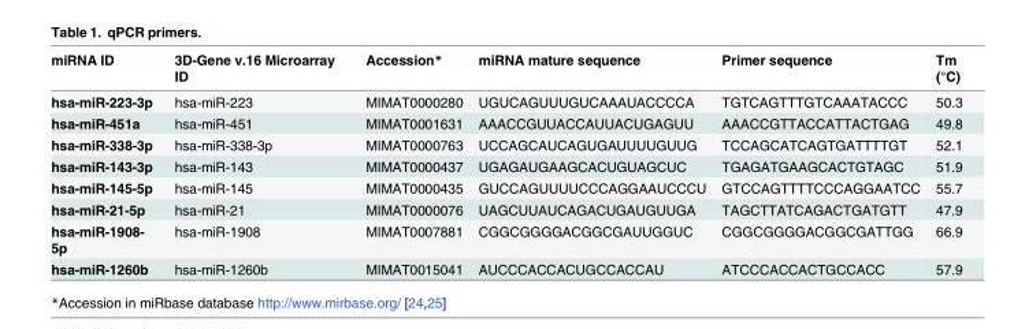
<table><thead><tr><td>miRNA ID</td><td>3D-Gene v.16 Microarray ID</td><td>Accession*</td><td>miRNA mature sequence</td><td>Primer sequence</td><td>Tm (°C)</td></tr></thead><tbody><tr><td>hsa-miR-223-3p</td><td>hsa-miR-223</td><td>MIMAT0000280</td><td>UGUCAGUUUGUCAAAUACCCCA</td><td>TGTCAGTTTGTCAAATACCC</td><td>50.3</td></tr><tr><td>hsa-miR-451a</td><td>hsa-miR-451</td><td>MIMAT0001631</td><td>AAACCGUUACCAUUACUGAGUU</td><td>AAACCGTTACCATTACTGAG</td><td>49.8</td></tr><tr><td>hsa-miR-338-3p</td><td>hsa-miR-338-3p</td><td>MIMAT0000763</td><td>UCCAGCAUCAGUGAUUUUGUUG</td><td>TCCAGCATCAGTGATTTTGT</td><td>52.1</td></tr><tr><td>hsa-miR-143-3p</td><td>hsa-miR-143</td><td>MIMAT0000437</td><td>UGAGAUGAAGCACUGUAGCUC</td><td>TGAGATGAAGCACTGTAGC</td><td>51.9</td></tr><tr><td>hsa-miR-145-5p</td><td>hsa-miR-145</td><td>MIMAT0000435</td><td>GUCCAGUUUUCCCAGGAAUCCCU</td><td>GTCCAGTTTTCCCAGGAATCC</td><td>55.7</td></tr><tr><td>hsa-miR-21-5p</td><td>hsa-miR-21</td><td>MIMAT0000076</td><td>UAGCUUAUCAGACUGAUGUUGA</td><td>TAGCTTATCAGACTGATGTT</td><td>47.9</td></tr><tr><td>hsa-miR-1908- 5p</td><td>hsa-miR-1908</td><td>MIMAT0007881</td><td>CGGCGGGGACGGCGAUUGGUC</td><td>CGGCGGGGACGGCGATTGG</td><td>66.9</td></tr><tr><td>hsa-miR-1260b</td><td>hsa-miR-1260b</td><td>MIMAT0015041</td><td>AUCCCACCACUGCCACCAU</td><td>ATCCCACCACTGCCACC</td><td>57.9</td></tr></tbody></table>